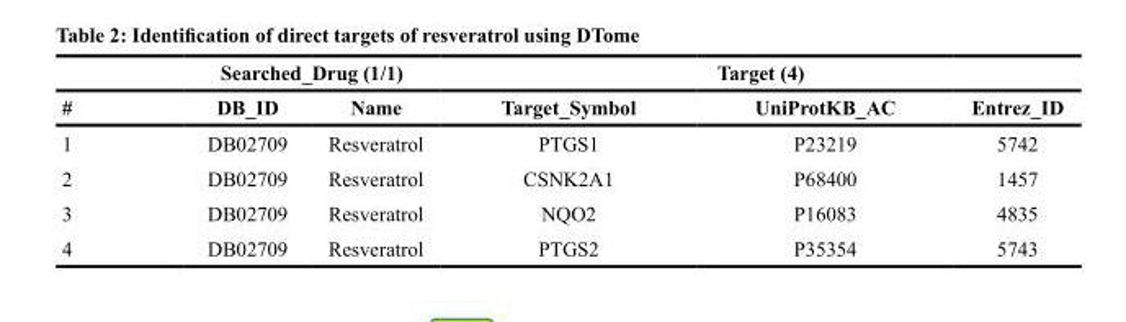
<table><thead><tr><td rowspan="2">#</td><td colspan="2">Searched_Drug (1/1)</td><td colspan="3">Target (4)</td></tr><tr><td>DB_ID</td><td>Name</td><td>Target_Symbol</td><td>UniProtKB_AC</td><td>Entrez_ID</td></tr></thead><tbody><tr><td>1</td><td>DB02709</td><td>Resveratrol</td><td>PTGS1</td><td>P23219</td><td>5742</td></tr><tr><td>2</td><td>DB02709</td><td>Resveratrol</td><td>CSNK2A1</td><td>P68400</td><td>1457</td></tr><tr><td>3</td><td>DB02709</td><td>Resveratrol</td><td>NQO2</td><td>P16083</td><td>4835</td></tr><tr><td>4</td><td>DB02709</td><td>Resveratrol</td><td>PTGS2</td><td>P35354</td><td>5743</td></tr></tbody></table>